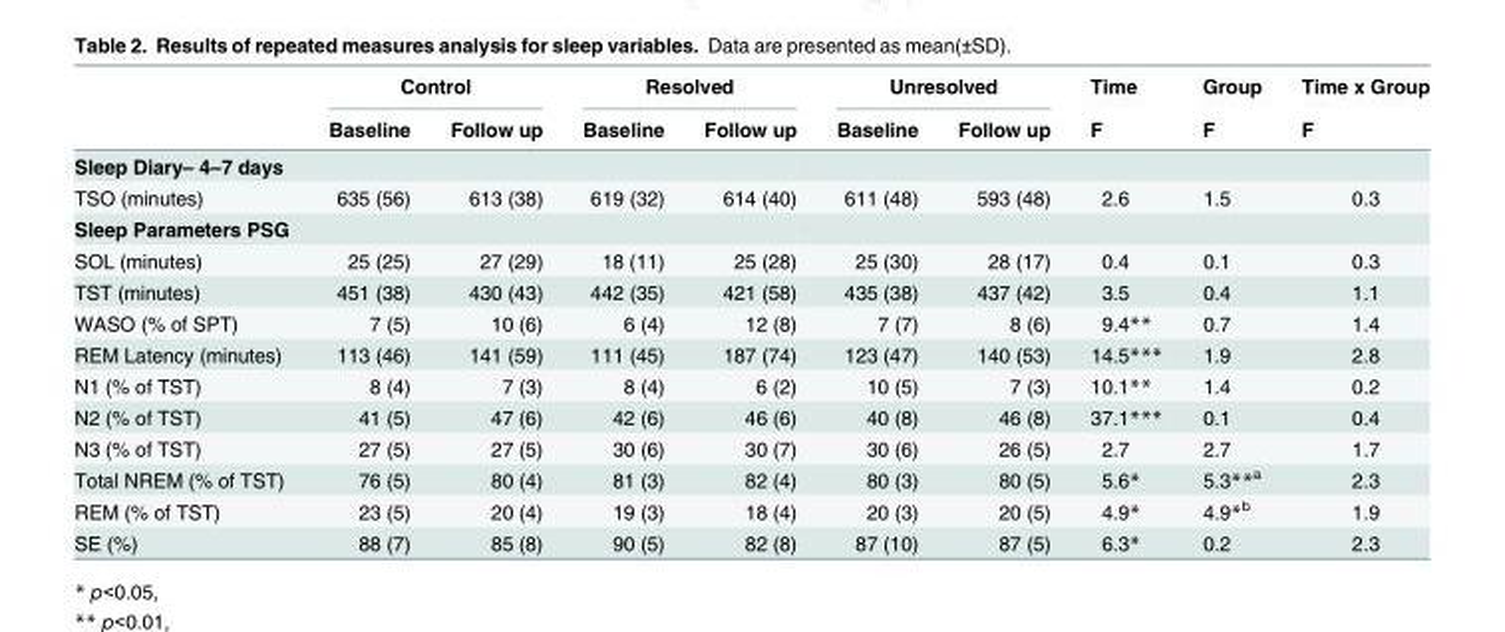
<table><thead><tr><td rowspan="2"></td><td colspan="2">Control</td><td colspan="2">Resolved</td><td colspan="2">Unresolved</td><td rowspan="2">Time F</td><td rowspan="2">Group F</td><td rowspan="2">Time x Group F</td></tr><tr><td>Baseline</td><td>Follow up</td><td>Baseline</td><td>Follow up</td><td>Baseline</td><td>Follow up</td></tr></thead><tbody><tr><td colspan="10">Sleep Diary– 4–7 days</td></tr><tr><td>TSO (minutes)</td><td>635 (56)</td><td>613 (38)</td><td>619 (32)</td><td>614 (40)</td><td>611 (48)</td><td>593 (48)</td><td>2.6</td><td>1.5</td><td>0.3</td></tr><tr><td colspan="10">Sleep Parameters PSG</td></tr><tr><td>SOL (minutes)</td><td>25 (25)</td><td>27 (29)</td><td>18 (11)</td><td>25 (28)</td><td>25 (30)</td><td>28 (17)</td><td>0.4</td><td>0.1</td><td>0.3</td></tr><tr><td>TST (minutes)</td><td>451 (38)</td><td>430 (43)</td><td>442 (35)</td><td>421 (58)</td><td>435 (38)</td><td>437 (42)</td><td>3.5</td><td>0.4</td><td>1.1</td></tr><tr><td>WASO (% of SPT)</td><td>7 (5)</td><td>10 (6)</td><td>6 (4)</td><td>12 (8)</td><td>7 (7)</td><td>8 (6)</td><td>9.4**</td><td>0.7</td><td>1.4</td></tr><tr><td>REM Latency (minutes)</td><td>113 (46)</td><td>141 (59)</td><td>111 (45)</td><td>187 (74)</td><td>123 (47)</td><td>140 (53)</td><td>14.5***</td><td>1.9</td><td>2.8</td></tr><tr><td>N1 (% of TST)</td><td>8 (4)</td><td>7 (3)</td><td>8 (4)</td><td>6 (2)</td><td>10 (5)</td><td>7 (3)</td><td>10.1**</td><td>1.4</td><td>0.2</td></tr><tr><td>N2 (% of TST)</td><td>41 (5)</td><td>47 (6)</td><td>42 (6)</td><td>46 (6)</td><td>40 (8)</td><td>46 (8)</td><td>37.1***</td><td>0.1</td><td>0.4</td></tr><tr><td>N3 (% of TST)</td><td>27 (5)</td><td>27 (5)</td><td>30 (6)</td><td>30 (7)</td><td>30 (6)</td><td>26 (5)</td><td>2.7</td><td>2.7</td><td>1.7</td></tr><tr><td>Total NREM (% of TST)</td><td>76 (5)</td><td>80 (4)</td><td>81 (3)</td><td>82 (4)</td><td>80 (3)</td><td>80 (5)</td><td>5.6*</td><td>5.3**<sup>a</sup></td><td>2.3</td></tr><tr><td>REM (% of TST)</td><td>23 (5)</td><td>20 (4)</td><td>19 (3)</td><td>18 (4)</td><td>20 (3)</td><td>20 (5)</td><td>4.9*</td><td>4.9*<sup>b</sup></td><td>1.9</td></tr><tr><td>SE (%)</td><td>88 (7)</td><td>85 (8)</td><td>90 (5)</td><td>82 (8)</td><td>87 (10)</td><td>87 (5)</td><td>6.3*</td><td>0.2</td><td>2.3</td></tr></tbody></table>